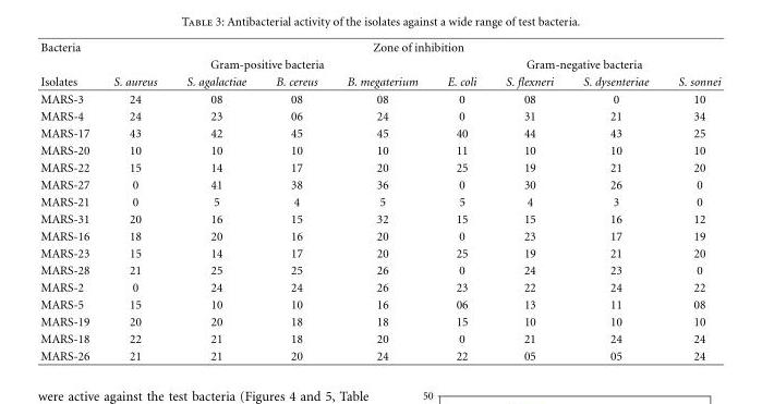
<table><thead><tr><td rowspan="3">Bacteria Isolates</td><td colspan="8">Zone of inhibition</td></tr><tr><td colspan="4">Gram-positive bacteria</td><td colspan="4">Gram-negative bacteria</td></tr><tr><td>S. aureus</td><td>S. agalactiae</td><td>B. cereus</td><td>B. megaterium</td><td>E. coli</td><td>S. flexneri</td><td>S. dysenteriae</td><td>S. sonnei</td></tr></thead><tbody><tr><td>MARS-3</td><td>24</td><td>08</td><td>08</td><td>08</td><td>0</td><td>08</td><td>0</td><td>10</td></tr><tr><td>MARS-4</td><td>24</td><td>23</td><td>06</td><td>24</td><td>0</td><td>31</td><td>21</td><td>34</td></tr><tr><td>MARS-17</td><td>43</td><td>42</td><td>45</td><td>45</td><td>40</td><td>44</td><td>43</td><td>25</td></tr><tr><td>MARS-20</td><td>10</td><td>10</td><td>10</td><td>10</td><td>11</td><td>10</td><td>10</td><td>10</td></tr><tr><td>MARS-22</td><td>15</td><td>14</td><td>17</td><td>20</td><td>25</td><td>19</td><td>21</td><td>20</td></tr><tr><td>MARS-27</td><td>0</td><td>41</td><td>38</td><td>36</td><td>0</td><td>30</td><td>26</td><td>0</td></tr><tr><td>MARS-21</td><td>0</td><td>5</td><td>4</td><td>5</td><td>5</td><td>4</td><td>3</td><td>0</td></tr><tr><td>MARS-31</td><td>20</td><td>16</td><td>15</td><td>32</td><td>15</td><td>15</td><td>16</td><td>12</td></tr><tr><td>MARS-16</td><td>18</td><td>20</td><td>16</td><td>20</td><td>0</td><td>23</td><td>17</td><td>19</td></tr><tr><td>MARS-23</td><td>15</td><td>14</td><td>17</td><td>20</td><td>25</td><td>19</td><td>21</td><td>20</td></tr><tr><td>MARS-28</td><td>21</td><td>25</td><td>25</td><td>26</td><td>0</td><td>24</td><td>23</td><td>0</td></tr><tr><td>MARS-2</td><td>0</td><td>24</td><td>24</td><td>26</td><td>23</td><td>22</td><td>24</td><td>22</td></tr><tr><td>MARS-5</td><td>15</td><td>10</td><td>10</td><td>16</td><td>06</td><td>13</td><td>11</td><td>08</td></tr><tr><td>MARS-19</td><td>20</td><td>20</td><td>18</td><td>18</td><td>15</td><td>10</td><td>10</td><td>10</td></tr><tr><td>MARS-18</td><td>22</td><td>21</td><td>18</td><td>20</td><td>0</td><td>21</td><td>24</td><td>24</td></tr><tr><td>MARS-26</td><td>21</td><td>21</td><td>20</td><td>24</td><td>22</td><td>05</td><td>05</td><td>24</td></tr></tbody></table>